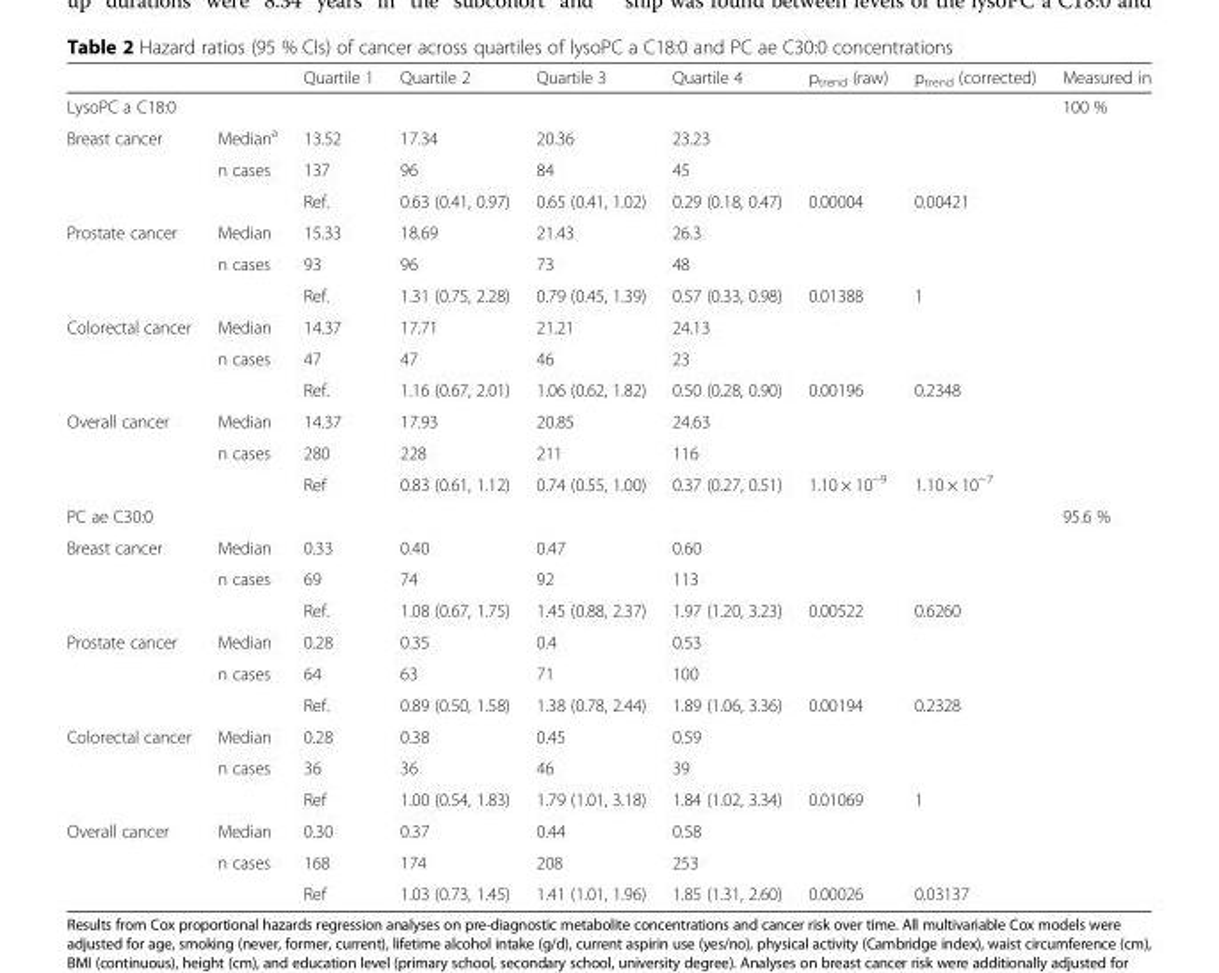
<table><thead><tr><td></td><td></td><td>Quartile 1</td><td>Quartile 2</td><td>Quartile 3</td><td>Quartile 4</td><td>p<sub>trend</sub> (raw)</td><td>p<sub>trend</sub> (corrected)</td><td>Measured in</td></tr></thead><tbody><tr><td>LysoPC a C18:0</td><td></td><td></td><td></td><td></td><td></td><td></td><td></td><td>100 %</td></tr><tr><td rowspan="3">Breast cancer</td><td>Median<sup>a</sup></td><td>13.52</td><td>17.34</td><td>20.36</td><td>23.23</td><td></td><td></td><td></td></tr><tr><td>n cases</td><td>137</td><td>96</td><td>84</td><td>45</td><td></td><td></td><td></td></tr><tr><td></td><td>Ref.</td><td>0.63 (0.41, 0.97)</td><td>0.65 (0.41, 1.02)</td><td>0.29 (0.18, 0.47)</td><td>0.00004</td><td>0.00421</td><td></td></tr><tr><td rowspan="3">Prostate cancer</td><td>Median</td><td>15.33</td><td>18.69</td><td>21.43</td><td>26.3</td><td></td><td></td><td></td></tr><tr><td>n cases</td><td>93</td><td>96</td><td>73</td><td>48</td><td></td><td></td><td></td></tr><tr><td></td><td>Ref.</td><td>1.31 (0.75, 2.28)</td><td>0.79 (0.45, 1.39)</td><td>0.57 (0.33, 0.98)</td><td>0.01388</td><td>1</td><td></td></tr><tr><td rowspan="3">Colorectal cancer</td><td>Median</td><td>14.37</td><td>17.71</td><td>21.21</td><td>24.13</td><td></td><td></td><td></td></tr><tr><td>n cases</td><td>47</td><td>47</td><td>46</td><td>23</td><td></td><td></td><td></td></tr><tr><td></td><td>Ref.</td><td>1.16 (0.67, 2.01)</td><td>1.06 (0.62, 1.82)</td><td>0.50 (0.28, 0.90)</td><td>0.00196</td><td>0.2348</td><td></td></tr><tr><td rowspan="3">Overall cancer</td><td>Median</td><td>14.37</td><td>17.93</td><td>20.85</td><td>24.63</td><td></td><td></td><td></td></tr><tr><td>n cases</td><td>280</td><td>228</td><td>211</td><td>116</td><td></td><td></td><td></td></tr><tr><td></td><td>Ref</td><td>0.83 (0.61, 1.12)</td><td>0.74 (0.55, 1.00)</td><td>0.37 (0.27, 0.51)</td><td>1.10 × 10<sup>−9</sup></td><td>1.10 × 10<sup>−7</sup></td><td></td></tr><tr><td>PC ae C30:0</td><td></td><td></td><td></td><td></td><td></td><td></td><td></td><td>95.6 %</td></tr><tr><td rowspan="3">Breast cancer</td><td>Median</td><td>0.33</td><td>0.40</td><td>0.47</td><td>0.60</td><td></td><td></td><td></td></tr><tr><td>n cases</td><td>69</td><td>74</td><td>92</td><td>113</td><td></td><td></td><td></td></tr><tr><td></td><td>Ref.</td><td>1.08 (0.67, 1.75)</td><td>1.45 (0.88, 2.37)</td><td>1.97 (1.20, 3.23)</td><td>0.00522</td><td>0.6260</td><td></td></tr><tr><td rowspan="3">Prostate cancer</td><td>Median</td><td>0.28</td><td>0.35</td><td>0.4</td><td>0.53</td><td></td><td></td><td></td></tr><tr><td>n cases</td><td>64</td><td>63</td><td>71</td><td>100</td><td></td><td></td><td></td></tr><tr><td></td><td>Ref.</td><td>0.89 (0.50, 1.58)</td><td>1.38 (0.78, 2.44)</td><td>1.89 (1.06, 3.36)</td><td>0.00194</td><td>0.2328</td><td></td></tr><tr><td rowspan="3">Colorectal cancer</td><td>Median</td><td>0.28</td><td>0.38</td><td>0.45</td><td>0.59</td><td></td><td></td><td></td></tr><tr><td>n cases</td><td>36</td><td>36</td><td>46</td><td>39</td><td></td><td></td><td></td></tr><tr><td></td><td>Ref</td><td>1.00 (0.54, 1.83)</td><td>1.79 (1.01, 3.18)</td><td>1.84 (1.02, 3.34)</td><td>0.01069</td><td>1</td><td></td></tr><tr><td rowspan="3">Overall cancer</td><td>Median</td><td>0.30</td><td>0.37</td><td>0.44</td><td>0.58</td><td></td><td></td><td></td></tr><tr><td>n cases</td><td>168</td><td>174</td><td>208</td><td>253</td><td></td><td></td><td></td></tr><tr><td></td><td>Ref</td><td>1.03 (0.73, 1.45)</td><td>1.41 (1.01, 1.96)</td><td>1.85 (1.31, 2.60)</td><td>0.00026</td><td>0.03137</td><td></td></tr></tbody></table>